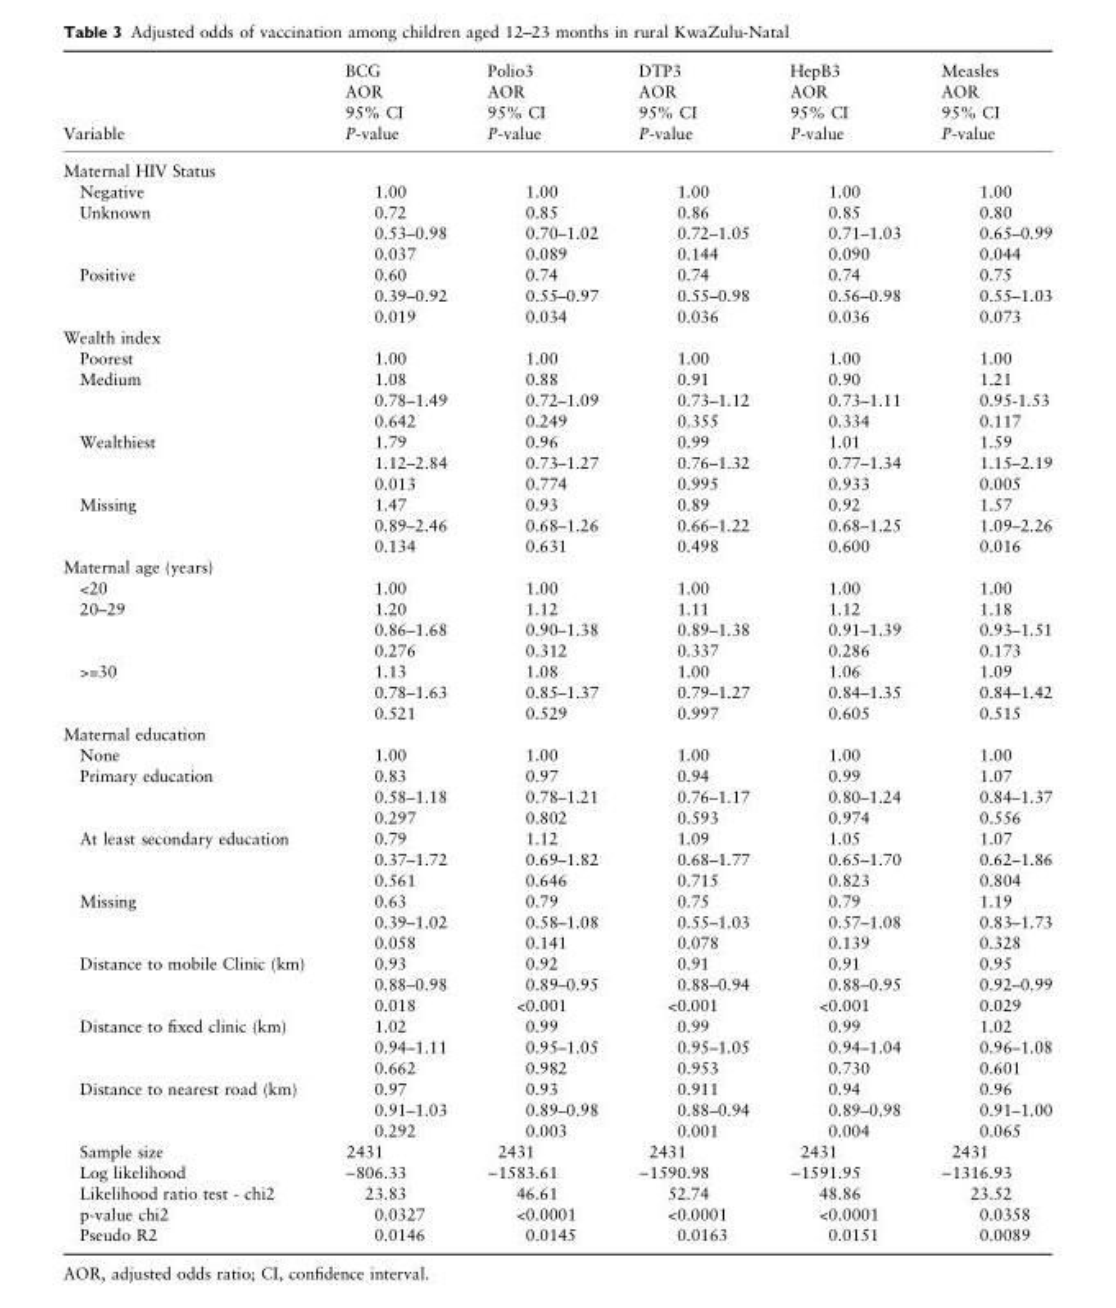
<table><thead><tr><td>Variable</td><td>BCG AOR 95% CI P-value</td><td>Polio3 AOR 95% CI P-value</td><td>DTP3 AOR 95% CI P-value</td><td>HepB3 AOR 95% CI P-value</td><td>Measles AOR 95% CI P-value</td></tr></thead><tbody><tr><td colspan="6">Maternal HIV Status</td></tr><tr><td>Negative</td><td>1.00</td><td>1.00</td><td>1.00</td><td>1.00</td><td>1.00</td></tr><tr><td rowspan="3">Unknown</td><td>0.72</td><td>0.85</td><td>0.86</td><td>0.85</td><td>0.80</td></tr><tr><td>0.53–0.98</td><td>0.70–1.02</td><td>0.72–1.05</td><td>0.71–1.03</td><td>0.65–0.99</td></tr><tr><td>0.037</td><td>0.089</td><td>0.144</td><td>0.090</td><td>0.044</td></tr><tr><td rowspan="3">Positive</td><td>0.60</td><td>0.74</td><td>0.74</td><td>0.74</td><td>0.75</td></tr><tr><td>0.39–0.92</td><td>0.55–0.97</td><td>0.55–0.98</td><td>0.56–0.98</td><td>0.55–1.03</td></tr><tr><td>0.019</td><td>0.034</td><td>0.036</td><td>0.036</td><td>0.073</td></tr><tr><td colspan="6">Wealth index</td></tr><tr><td>Poorest</td><td>1.00</td><td>1.00</td><td>1.00</td><td>1.00</td><td>1.00</td></tr><tr><td rowspan="3">Medium</td><td>1.08</td><td>0.88</td><td>0.91</td><td>0.90</td><td>1.21</td></tr><tr><td>0.78–1.49</td><td>0.72–1.09</td><td>0.73–1.12</td><td>0.73–1.11</td><td>0.95-1.53</td></tr><tr><td>0.642</td><td>0.249</td><td>0.355</td><td>0.334</td><td>0.117</td></tr><tr><td rowspan="3">Wealthiest</td><td>1.79</td><td>0.96</td><td>0.99</td><td>1.01</td><td>1.59</td></tr><tr><td>1.12–2.84</td><td>0.73–1.27</td><td>0.76–1.32</td><td>0.77–1.34</td><td>1.15–2.19</td></tr><tr><td>0.013</td><td>0.774</td><td>0.995</td><td>0.933</td><td>0.005</td></tr><tr><td rowspan="3">Missing</td><td>1.47</td><td>0.93</td><td>0.89</td><td>0.92</td><td>1.57</td></tr><tr><td>0.89–2.46</td><td>0.68–1.26</td><td>0.66–1.22</td><td>0.68–1.25</td><td>1.09–2.26</td></tr><tr><td>0.134</td><td>0.631</td><td>0.498</td><td>0.600</td><td>0.016</td></tr><tr><td colspan="6">Maternal age (years)</td></tr><tr><td>&lt;20</td><td>1.00</td><td>1.00</td><td>1.00</td><td>1.00</td><td>1.00</td></tr><tr><td rowspan="3">20–29</td><td>1.20</td><td>1.12</td><td>1.11</td><td>1.12</td><td>1.18</td></tr><tr><td>0.86–1.68</td><td>0.90–1.38</td><td>0.89–1.38</td><td>0.91–1.39</td><td>0.93–1.51</td></tr><tr><td>0.276</td><td>0.312</td><td>0.337</td><td>0.286</td><td>0.173</td></tr><tr><td rowspan="3">&gt;=30</td><td>1.13</td><td>1.08</td><td>1.00</td><td>1.06</td><td>1.09</td></tr><tr><td>0.78–1.63</td><td>0.85–1.37</td><td>0.79–1.27</td><td>0.84–1.35</td><td>0.84–1.42</td></tr><tr><td>0.521</td><td>0.529</td><td>0.997</td><td>0.605</td><td>0.515</td></tr><tr><td colspan="6">Maternal education</td></tr><tr><td>None</td><td>1.00</td><td>1.00</td><td>1.00</td><td>1.00</td><td>1.00</td></tr><tr><td rowspan="3">Primary education</td><td>0.83</td><td>0.97</td><td>0.94</td><td>0.99</td><td>1.07</td></tr><tr><td>0.58–1.18</td><td>0.78–1.21</td><td>0.76–1.17</td><td>0.80–1.24</td><td>0.84–1.37</td></tr><tr><td>0.297</td><td>0.802</td><td>0.593</td><td>0.974</td><td>0.556</td></tr><tr><td rowspan="3">At least secondary education</td><td>0.79</td><td>1.12</td><td>1.09</td><td>1.05</td><td>1.07</td></tr><tr><td>0.37–1.72</td><td>0.69–1.82</td><td>0.68–1.77</td><td>0.65–1.70</td><td>0.62–1.86</td></tr><tr><td>0.561</td><td>0.646</td><td>0.715</td><td>0.823</td><td>0.804</td></tr><tr><td rowspan="3">Missing</td><td>0.63</td><td>0.79</td><td>0.75</td><td>0.79</td><td>1.19</td></tr><tr><td>0.39–1.02</td><td>0.58–1.08</td><td>0.55–1.03</td><td>0.57–1.08</td><td>0.83–1.73</td></tr><tr><td>0.058</td><td>0.141</td><td>0.078</td><td>0.139</td><td>0.328</td></tr><tr><td rowspan="3">Distance to mobile Clinic (km)</td><td>0.93</td><td>0.92</td><td>0.91</td><td>0.91</td><td>0.95</td></tr><tr><td>0.88–0.98</td><td>0.89–0.95</td><td>0.88–0.94</td><td>0.88–0.95</td><td>0.92–0.99</td></tr><tr><td>0.018</td><td>&lt;0.001</td><td>&lt;0.001</td><td>&lt;0.001</td><td>0.029</td></tr><tr><td rowspan="3">Distance to fixed clinic (km)</td><td>1.02</td><td>0.99</td><td>0.99</td><td>0.99</td><td>1.02</td></tr><tr><td>0.94–1.11</td><td>0.95–1.05</td><td>0.95–1.05</td><td>0.94–1.04</td><td>0.96–1.08</td></tr><tr><td>0.662</td><td>0.982</td><td>0.953</td><td>0.730</td><td>0.601</td></tr><tr><td rowspan="3">Distance to nearest road (km)</td><td>0.97</td><td>0.93</td><td>0.911</td><td>0.94</td><td>0.96</td></tr><tr><td>0.91–1.03</td><td>0.89–0.98</td><td>0.88–0.94</td><td>0.89–0.98</td><td>0.91–1.00</td></tr><tr><td>0.292</td><td>0.003</td><td>0.001</td><td>0.004</td><td>0.065</td></tr><tr><td>Sample size</td><td>2431</td><td>2431</td><td>2431</td><td>2431</td><td>2431</td></tr><tr><td>Log likelihood</td><td>−806.33</td><td>−1583.61</td><td>−1590.98</td><td>−1591.95</td><td>−1316.93</td></tr><tr><td>Likelihood ratio test - chi2</td><td>23.83</td><td>46.61</td><td>52.74</td><td>48.86</td><td>23.52</td></tr><tr><td>p-value chi2</td><td>0.0327</td><td>&lt;0.0001</td><td>&lt;0.0001</td><td>&lt;0.0001</td><td>0.0358</td></tr><tr><td>Pseudo R2</td><td>0.0146</td><td>0.0145</td><td>0.0163</td><td>0.0151</td><td>0.0089</td></tr></tbody></table>